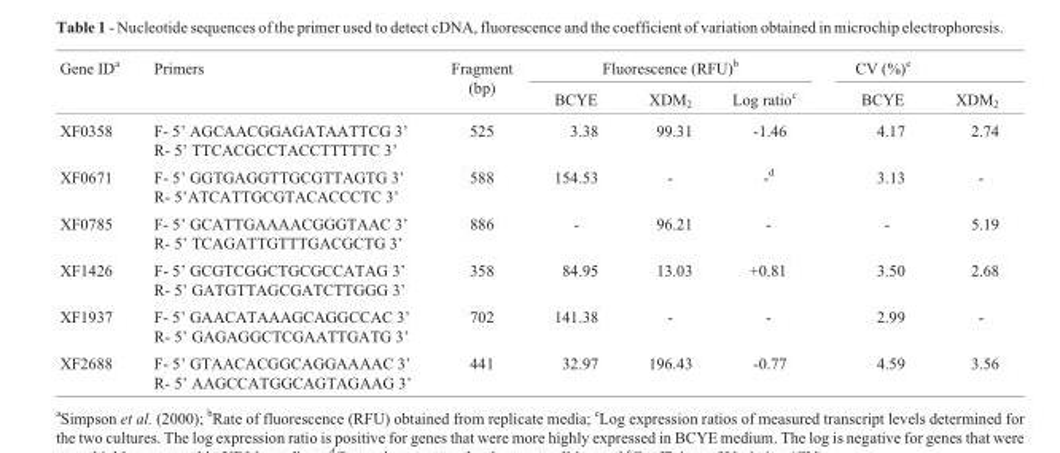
<table><thead><tr><td rowspan="2">Gene ID<sup>a</sup></td><td rowspan="2">Primers</td><td rowspan="2">Fragment (bp)</td><td colspan="3">Fluorescence (RFU)<sup>b</sup></td><td colspan="2">CV (%)<sup>e</sup></td></tr><tr><td>BCYE</td><td>XDM<sub>2</sub></td><td>Log ratio<sup>c</sup></td><td>BCYE</td><td>XDM<sub>2</sub></td></tr></thead><tbody><tr><td>XF0358</td><td>F- 5’ AGCAACGGAGATAATTCG 3’ R- 5’ TTCACGCCTACCTTTTTC 3’</td><td>525</td><td>3.38</td><td>99.31</td><td>-1.46</td><td>4.17</td><td>2.74</td></tr><tr><td>XF0671</td><td>F- 5’ GGTGAGGTTGCGTTAGTG 3’ R- 5’ATCATTGCGTACACCCTC 3’</td><td>588</td><td>154.53</td><td>-</td><td>-<sup>d</sup></td><td>3.13</td><td>-</td></tr><tr><td>XF0785</td><td>F- 5’ GCATTGAAAACGGGTAAC 3’ R- 5’ TCAGATTGTTTGACGCTG 3’</td><td>886</td><td>-</td><td>96.21</td><td>-</td><td>-</td><td>5.19</td></tr><tr><td>XF1426</td><td>F- 5’ GCGTCGGCTGCGCCATAG 3’ R- 5’ GATGTTAGCGATCTTGGG 3’</td><td>358</td><td>84.95</td><td>13.03</td><td>+0.81</td><td>3.50</td><td>2.68</td></tr><tr><td>XF1937</td><td>F- 5’ GAACATAAAGCAGGCCAC 3’ R- 5’ GAGAGGCTCGAATTGATG 3’</td><td>702</td><td>141.38</td><td>-</td><td>-</td><td>2.99</td><td>-</td></tr><tr><td>XF2688</td><td>F- 5’ GTAACACGGCAGGAAAAC 3’ R- 5’ AAGCCATGGCAGTAGAAG 3’</td><td>441</td><td>32.97</td><td>196.43</td><td>-0.77</td><td>4.59</td><td>3.56</td></tr></tbody></table>